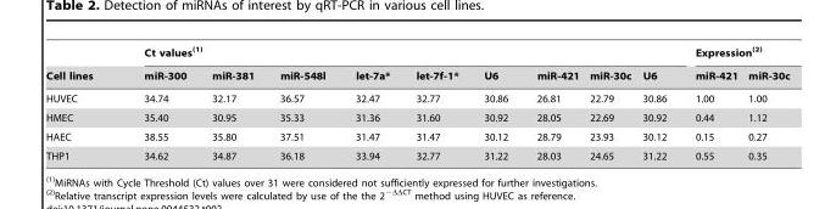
<table><thead><tr><td rowspan="2">Cell lines</td><td colspan="9">Ct values(1)</td><td colspan="2">Expression(2)</td></tr><tr><td>miR-300</td><td>miR-381</td><td>miR-548l</td><td>let-7a*</td><td>let-7f-1*</td><td>U6</td><td>miR-421</td><td>miR-30c</td><td>U6</td><td>miR-421</td><td>miR-30c</td></tr></thead><tbody><tr><td>HUVEC</td><td>34.74</td><td>32.17</td><td>36.57</td><td>32.47</td><td>32.77</td><td>30.86</td><td>26.81</td><td>22.79</td><td>30.86</td><td>1.00</td><td>1.00</td></tr><tr><td>HMEC</td><td>35.40</td><td>30.95</td><td>35.33</td><td>31.36</td><td>31.60</td><td>30.92</td><td>28.05</td><td>22.69</td><td>30.92</td><td>0.44</td><td>1.12</td></tr><tr><td>HAEC</td><td>38.55</td><td>35.80</td><td>37.51</td><td>31.47</td><td>31.47</td><td>30.12</td><td>28.79</td><td>23.93</td><td>30.12</td><td>0.15</td><td>0.27</td></tr><tr><td>THP1</td><td>34.62</td><td>34.87</td><td>36.18</td><td>33.94</td><td>32.77</td><td>31.22</td><td>28.03</td><td>24.65</td><td>31.22</td><td>0.55</td><td>0.35</td></tr></tbody></table>